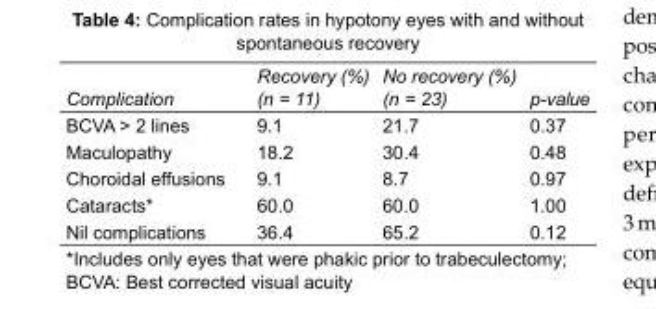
<table><tbody><tr><td>Complication</td><td>Recovery (%) (n = 11)</td><td>No recovery (%) (n = 23)</td><td>p-value</td></tr><tr><td>BCVA &gt; 2 lines</td><td>9.1</td><td>21.7</td><td>0.37</td></tr><tr><td>Maculopathy</td><td>18.2</td><td>30.4</td><td>0.48</td></tr><tr><td>Choroidal effusions</td><td>9.1</td><td>8.7</td><td>0.97</td></tr><tr><td>Cataracts*</td><td>60.0</td><td>60.0</td><td>1.00</td></tr><tr><td>Nil complications</td><td>36.4</td><td>65.2</td><td>0.12</td></tr></tbody></table>